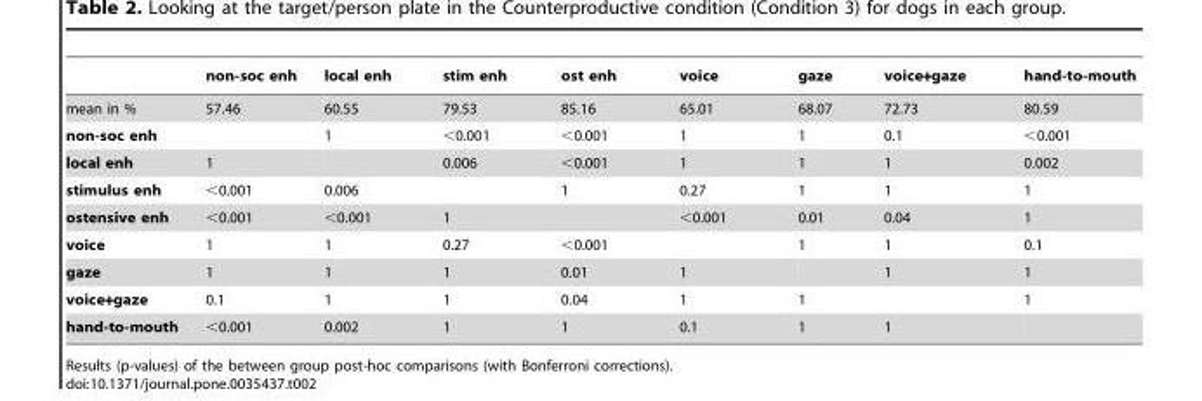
<table><thead><tr><td></td><td>non-soc enh</td><td>local enh</td><td>stim enh</td><td>ost enh</td><td>voice</td><td>gaze</td><td>voice+gaze</td><td>hand-to-mouth</td></tr></thead><tbody><tr><td>mean in %</td><td>57.46</td><td>60.55</td><td>79.53</td><td>85.16</td><td>65.01</td><td>68.07</td><td>72.73</td><td>80.59</td></tr><tr><td>non-soc enh</td><td></td><td>1</td><td>&lt;0.001</td><td>&lt;0.001</td><td>1</td><td>1</td><td>0.1</td><td>&lt;0.001</td></tr><tr><td>local enh</td><td>1</td><td></td><td>0.006</td><td>&lt;0.001</td><td>1</td><td>1</td><td>1</td><td>0.002</td></tr><tr><td>stimulus enh</td><td>&lt;0.001</td><td>0.006</td><td></td><td>1</td><td>0.27</td><td>1</td><td>1</td><td>1</td></tr><tr><td>ostensive enh</td><td>&lt;0.001</td><td>&lt;0.001</td><td>1</td><td></td><td>&lt;0.001</td><td>0.01</td><td>0.04</td><td>1</td></tr><tr><td>voice</td><td>1</td><td>1</td><td>0.27</td><td>&lt;0.001</td><td></td><td>1</td><td>1</td><td>0.1</td></tr><tr><td>gaze</td><td>1</td><td>1</td><td>1</td><td>0.01</td><td>1</td><td></td><td>1</td><td>1</td></tr><tr><td>voice+gaze</td><td>0.1</td><td>1</td><td>1</td><td>0.04</td><td>1</td><td>1</td><td></td><td>1</td></tr><tr><td>hand-to-mouth</td><td>&lt;0.001</td><td>0.002</td><td>1</td><td>1</td><td>0.1</td><td>1</td><td>1</td><td></td></tr></tbody></table>